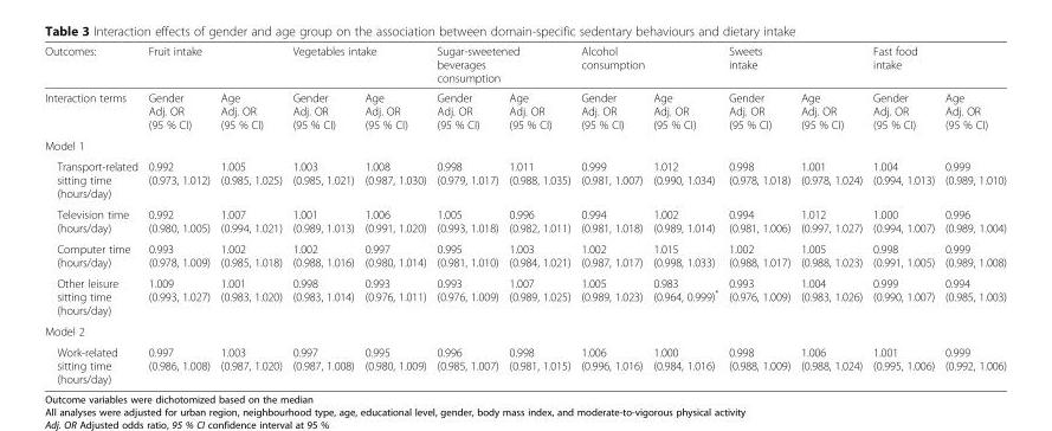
<table><thead><tr><td rowspan="2">Outcomes: Interaction terms</td><td colspan="2">Fruit intake</td><td colspan="2">Vegetables intake</td><td colspan="2">Sugar-sweetened beverages consumption</td><td colspan="2">Alcohol consumption</td><td colspan="2">Sweets intake</td><td colspan="2">Fast food intake</td></tr><tr><td>Gender Adj. OR (95 % CI)</td><td>Age Adj. OR (95 % CI)</td><td>Gender Adj. OR (95 % CI)</td><td>Age Adj. OR (95 % CI)</td><td>Gender Adj. OR (95 % CI)</td><td>Age Adj. OR (95 % CI)</td><td>Gender Adj. OR (95 % CI)</td><td>Age Adj. OR (95 % CI)</td><td>Gender Adj. OR (95 % CI)</td><td>Age Adj. OR (95 % CI)</td><td>Gender Adj. OR (95 % CI)</td><td>Age Adj. OR (95 % CI)</td></tr></thead><tbody><tr><td colspan="13">Model 1</td></tr><tr><td>Transport-related sitting time (hours/day)</td><td>0.992 (0.973, 1.012)</td><td>1.005 (0.985, 1.025)</td><td>1.003 (0.985, 1.021)</td><td>1.008 (0.987, 1.030)</td><td>0.998 (0.979, 1.017)</td><td>1.011 (0.988, 1.035)</td><td>0.999 (0.981, 1.007)</td><td>1.012 (0.990, 1.034)</td><td>0.998 (0.978, 1.018)</td><td>1.001 (0.978, 1.024)</td><td>1.004 (0.994, 1.013)</td><td>0.999 (0.989, 1.010)</td></tr><tr><td>Television time (hours/day)</td><td>0.992 (0.980, 1.005)</td><td>1.007 (0.994, 1.021)</td><td>1.001 (0.989, 1.013)</td><td>1.006 (0.991, 1.020)</td><td>1.005 (0.993, 1.018)</td><td>0.996 (0.982, 1.011)</td><td>0.994 (0.981, 1.018)</td><td>1.002 (0.989, 1.014)</td><td>0.994 (0.981, 1.006)</td><td>1.012 (0.997, 1.027)</td><td>1.000 (0.994, 1.007)</td><td>0.996 (0.989, 1.004)</td></tr><tr><td>Computer time (hours/day)</td><td>0.993 (0.978, 1.009)</td><td>1.002 (0.985, 1.018)</td><td>1.002 (0.988, 1.016)</td><td>0.997 (0.980, 1.014)</td><td>0.995 (0.981, 1.010)</td><td>1.003 (0.984, 1.021)</td><td>1.002 (0.987, 1.017)</td><td>1.015 (0.998, 1.033)</td><td>1.002 (0.988, 1.017)</td><td>1.005 (0.988, 1.023)</td><td>0.998 (0.991, 1.005)</td><td>0.999 (0.989, 1.008)</td></tr><tr><td>Other leisure sitting time (hours/day)</td><td>1.009 (0.993, 1.027)</td><td>1.001 (0.983, 1.020)</td><td>0.998 (0.983, 1.014)</td><td>0.993 (0.976, 1.011)</td><td>0.993 (0.976, 1.009)</td><td>1.007 (0.989, 1.025)</td><td>1.005 (0.989, 1.023)</td><td>0.983 (0.964, 0.999)*</td><td>0.993 (0.976, 1.009)</td><td>1.004 (0.983, 1.026)</td><td>0.999 (0.990, 1.007)</td><td>0.994 (0.985, 1.003)</td></tr><tr><td colspan="13">Model 2</td></tr><tr><td>Work-related sitting time (hours/day)</td><td>0.997 (0.986, 1.008)</td><td>1.003 (0.987, 1.020)</td><td>0.997 (0.987, 1.008)</td><td>0.995 (0.980, 1.009)</td><td>0.996 (0.985, 1.007)</td><td>0.998 (0.981, 1.015)</td><td>1.006 (0.996, 1.016)</td><td>1.000 (0.984, 1.016)</td><td>0.998 (0.988, 1.009)</td><td>1.006 (0.988, 1.024)</td><td>1.001 (0.995, 1.006)</td><td>0.999 (0.992, 1.006)</td></tr></tbody></table>